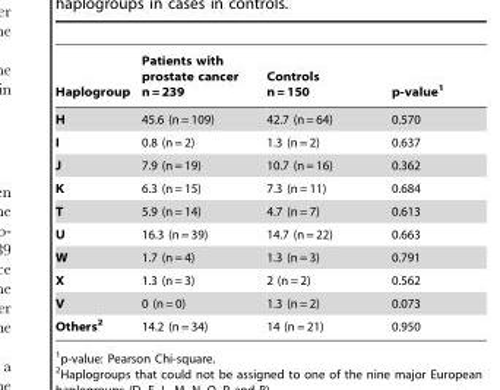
<table><thead><tr><td>Haplogroup</td><td>Patients with prostate cancer n = 239</td><td>Controls n = 150</td><td>p-value<sup>1</sup></td></tr></thead><tbody><tr><td>H</td><td>45.6 (n = 109)</td><td>42.7 (n = 64)</td><td>0.570</td></tr><tr><td>I</td><td>0.8 (n = 2)</td><td>1.3 (n = 2)</td><td>0.637</td></tr><tr><td>J</td><td>7.9 (n = 19)</td><td>10.7 (n = 16)</td><td>0.362</td></tr><tr><td>K</td><td>6.3 (n = 15)</td><td>7.3 (n = 11)</td><td>0.684</td></tr><tr><td>T</td><td>5.9 (n = 14)</td><td>4.7 (n = 7)</td><td>0.613</td></tr><tr><td>U</td><td>16.3 (n = 39)</td><td>14.7 (n = 22)</td><td>0.663</td></tr><tr><td>W</td><td>1.7 (n = 4)</td><td>1.3 (n = 3)</td><td>0.791</td></tr><tr><td>X</td><td>1.3 (n = 3)</td><td>2 (n = 2)</td><td>0.562</td></tr><tr><td>V</td><td>0 (n = 0)</td><td>1.3 (n = 2)</td><td>0.073</td></tr><tr><td>Others2</td><td>14.2 (n = 34)</td><td>14 (n = 21)</td><td>0.950</td></tr></tbody></table>